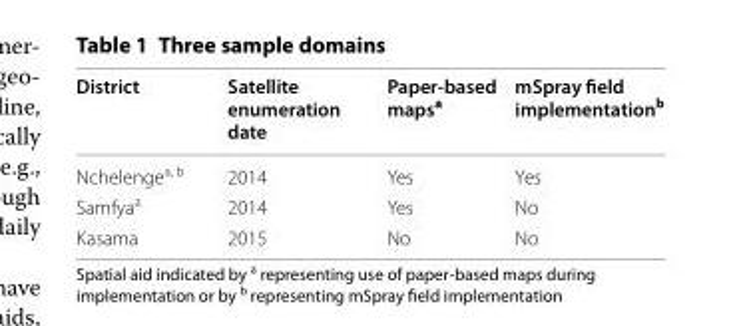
<table><thead><tr><td>District</td><td>Satellite enumeration date</td><td>Paper-based maps<sup>a</sup></td><td>mSpray field implementation<sup>b</sup></td></tr></thead><tbody><tr><td>Nchelenge<sup>a, b</sup></td><td>2014</td><td>Yes</td><td>Yes</td></tr><tr><td>Samfya<sup>a</sup></td><td>2014</td><td>Yes</td><td>No</td></tr><tr><td>Kasama</td><td>2015</td><td>No</td><td>No</td></tr></tbody></table>